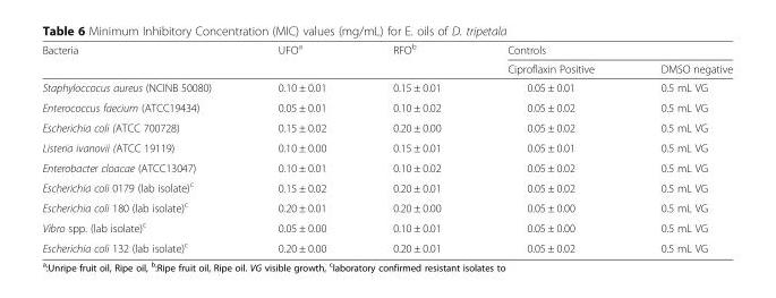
<table><thead><tr><td rowspan="2">Bacteria</td><td rowspan="2">UFO<sup>a</sup></td><td rowspan="2">RFO<sup>b</sup></td><td colspan="2">Controls</td></tr><tr><td>Ciproflaxin Positive</td><td>DMSO negative</td></tr></thead><tbody><tr><td>Staphyloccocus aureus (NCINB 50080)</td><td>0.10 ± 0.01</td><td>0.15 ± 0.01</td><td>0.05 ± 0.01</td><td>0.5 mL VG</td></tr><tr><td>Enterococcus faecium (ATCC19434)</td><td>0.05 ± 0.01</td><td>0.10 ± 0.02</td><td>0.05 ± 0.02</td><td>0.5 mL VG</td></tr><tr><td>Escherichia coli (ATCC 700728)</td><td>0.15 ± 0.02</td><td>0.20 ± 0.00</td><td>0.05 ± 0.02</td><td>0.5 mL VG</td></tr><tr><td>Listeria ivanovii (ATCC 19119)</td><td>0.10 ± 0.00</td><td>0.15 ± 0.01</td><td>0.05 ± 0.01</td><td>0.5 mL VG</td></tr><tr><td>Enterobacter cloacae (ATCC13047)</td><td>0.10 ± 0.01</td><td>0.10 ± 0.02</td><td>0.05 ± 0.02</td><td>0.5 mL VG</td></tr><tr><td>Escherichia coli 0179 (lab isolate)<sup>c</sup></td><td>0.15 ± 0.02</td><td>0.20 ± 0.01</td><td>0.05 ± 0.02</td><td>0.5 mL VG</td></tr><tr><td>Escherichia coli 180 (lab isolate)<sup>c</sup></td><td>0.20 ± 0.01</td><td>0.20 ± 0.00</td><td>0.05 ± 0.00</td><td>0.5 mL VG</td></tr><tr><td>Vibro spp. (lab isolate)<sup>c</sup></td><td>0.05 ± 0.00</td><td>0.10 ± 0.01</td><td>0.05 ± 0.00</td><td>0.5 mL VG</td></tr><tr><td>Escherichia coli 132 (lab isolate)<sup>c</sup></td><td>0.20 ± 0.00</td><td>0.20 ± 0.01</td><td>0.05 ± 0.02</td><td>0.5 mL VG</td></tr></tbody></table>